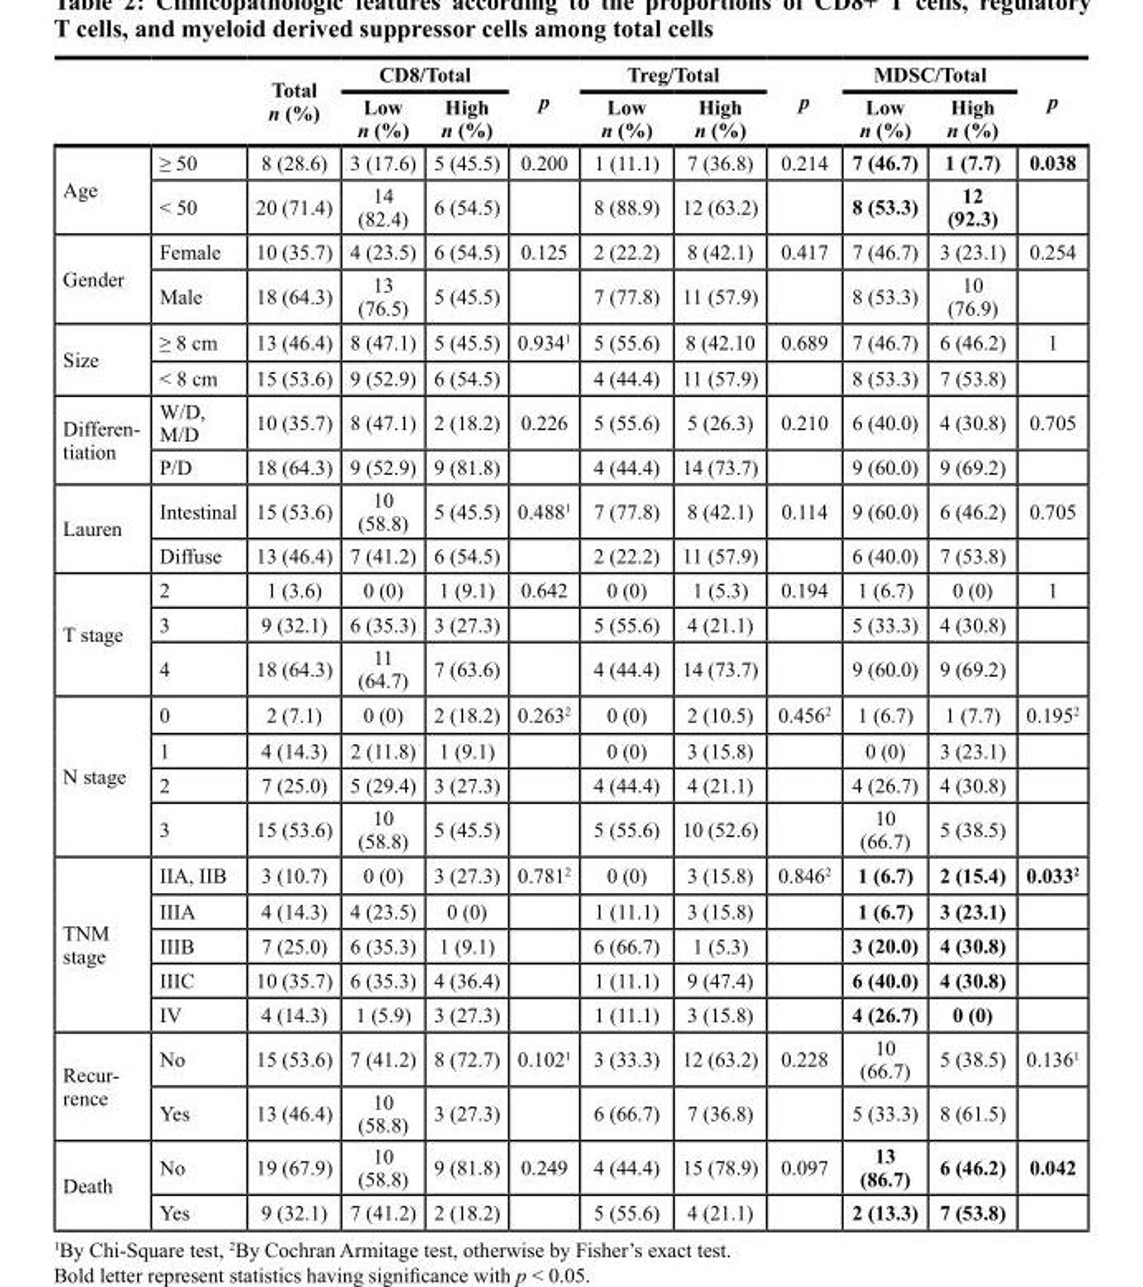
<table><thead><tr><td rowspan="2"></td><td rowspan="2"></td><td rowspan="2">Total n (%)</td><td colspan="2">CD8/Total</td><td rowspan="2">p</td><td colspan="2">Treg/Total</td><td rowspan="2">p</td><td colspan="2">MDSC/Total</td><td rowspan="2">p</td></tr><tr><td>Low n (%)</td><td>High n (%)</td><td>Low n (%)</td><td>High n (%)</td><td>Low n (%)</td><td>High n (%)</td></tr></thead><tbody><tr><td rowspan="2">Age</td><td>≥ 50</td><td>8 (28.6)</td><td>3 (17.6)</td><td>5 (45.5)</td><td>0.200</td><td>1 (11.1)</td><td>7 (36.8)</td><td>0.214</td><td>7 (46.7)</td><td>1 (7.7)</td><td>0.038</td></tr><tr><td>&lt; 50</td><td>20 (71.4)</td><td>14 (82.4)</td><td>6 (54.5)</td><td></td><td>8 (88.9)</td><td>12 (63.2)</td><td></td><td>8 (53.3)</td><td>12 (92.3)</td><td></td></tr><tr><td rowspan="2">Gender</td><td>Female</td><td>10 (35.7)</td><td>4 (23.5)</td><td>6 (54.5)</td><td>0.125</td><td>2 (22.2)</td><td>8 (42.1)</td><td>0.417</td><td>7 (46.7)</td><td>3 (23.1)</td><td>0.254</td></tr><tr><td>Male</td><td>18 (64.3)</td><td>13 (76.5)</td><td>5 (45.5)</td><td></td><td>7 (77.8)</td><td>11 (57.9)</td><td></td><td>8 (53.3)</td><td>10 (76.9)</td><td></td></tr><tr><td rowspan="2">Size</td><td>≥ 8 cm</td><td>13 (46.4)</td><td>8 (47.1)</td><td>5 (45.5)</td><td>0.934<sup>1</sup></td><td>5 (55.6)</td><td>8 (42.10</td><td>0.689</td><td>7 (46.7)</td><td>6 (46.2)</td><td>1</td></tr><tr><td>&lt; 8 cm</td><td>15 (53.6)</td><td>9 (52.9)</td><td>6 (54.5)</td><td></td><td>4 (44.4)</td><td>11 (57.9)</td><td></td><td>8 (53.3)</td><td>7 (53.8)</td><td></td></tr><tr><td rowspan="2">Differen- tiation</td><td>W/D, M/D</td><td>10 (35.7)</td><td>8 (47.1)</td><td>2 (18.2)</td><td>0.226</td><td>5 (55.6)</td><td>5 (26.3)</td><td>0.210</td><td>6 (40.0)</td><td>4 (30.8)</td><td>0.705</td></tr><tr><td>P/D</td><td>18 (64.3)</td><td>9 (52.9)</td><td>9 (81.8)</td><td></td><td>4 (44.4)</td><td>14 (73.7)</td><td></td><td>9 (60.0)</td><td>9 (69.2)</td><td></td></tr><tr><td rowspan="2">Lauren</td><td>Intestinal</td><td>15 (53.6)</td><td>10 (58.8)</td><td>5 (45.5)</td><td>0.488<sup>1</sup></td><td>7 (77.8)</td><td>8 (42.1)</td><td>0.114</td><td>9 (60.0)</td><td>6 (46.2)</td><td>0.705</td></tr><tr><td>Diffuse</td><td>13 (46.4)</td><td>7 (41.2)</td><td>6 (54.5)</td><td></td><td>2 (22.2)</td><td>11 (57.9)</td><td></td><td>6 (40.0)</td><td>7 (53.8)</td><td></td></tr><tr><td rowspan="3">T stage</td><td>2</td><td>1 (3.6)</td><td>0 (0)</td><td>1 (9.1)</td><td>0.642</td><td>0 (0)</td><td>1 (5.3)</td><td>0.194</td><td>1 (6.7)</td><td>0 (0)</td><td>1</td></tr><tr><td>3</td><td>9 (32.1)</td><td>6 (35.3)</td><td>3 (27.3)</td><td></td><td>5 (55.6)</td><td>4 (21.1)</td><td></td><td>5 (33.3)</td><td>4 (30.8)</td><td></td></tr><tr><td>4</td><td>18 (64.3)</td><td>11 (64.7)</td><td>7 (63.6)</td><td></td><td>4 (44.4)</td><td>14 (73.7)</td><td></td><td>9 (60.0)</td><td>9 (69.2)</td><td></td></tr><tr><td rowspan="4">N stage</td><td>0</td><td>2 (7.1)</td><td>0 (0)</td><td>2 (18.2)</td><td>0.263<sup>2</sup></td><td>0 (0)</td><td>2 (10.5)</td><td>0.456<sup>2</sup></td><td>1 (6.7)</td><td>1 (7.7)</td><td>0.195<sup>2</sup></td></tr><tr><td>1</td><td>4 (14.3)</td><td>2 (11.8)</td><td>1 (9.1)</td><td></td><td>0 (0)</td><td>3 (15.8)</td><td></td><td>0 (0)</td><td>3 (23.1)</td><td></td></tr><tr><td>2</td><td>7 (25.0)</td><td>5 (29.4)</td><td>3 (27.3)</td><td></td><td>4 (44.4)</td><td>4 (21.1)</td><td></td><td>4 (26.7)</td><td>4 (30.8)</td><td></td></tr><tr><td>3</td><td>15 (53.6)</td><td>10 (58.8)</td><td>5 (45.5)</td><td></td><td>5 (55.6)</td><td>10 (52.6)</td><td></td><td>10 (66.7)</td><td>5 (38.5)</td><td></td></tr><tr><td rowspan="5">TNM stage</td><td>IIA, IIB</td><td>3 (10.7)</td><td>0 (0)</td><td>3 (27.3)</td><td>0.781<sup>2</sup></td><td>0 (0)</td><td>3 (15.8)</td><td>0.846<sup>2</sup></td><td>1 (6.7)</td><td>2 (15.4)</td><td>0.033<sup>2</sup></td></tr><tr><td>IIIA</td><td>4 (14.3)</td><td>4 (23.5)</td><td>0 (0)</td><td></td><td>1 (11.1)</td><td>3 (15.8)</td><td></td><td>1 (6.7)</td><td>3 (23.1)</td><td></td></tr><tr><td>IIIB</td><td>7 (25.0)</td><td>6 (35.3)</td><td>1 (9.1)</td><td></td><td>6 (66.7)</td><td>1 (5.3)</td><td></td><td>3 (20.0)</td><td>4 (30.8)</td><td></td></tr><tr><td>IIIC</td><td>10 (35.7)</td><td>6 (35.3)</td><td>4 (36.4)</td><td></td><td>1 (11.1)</td><td>9 (47.4)</td><td></td><td>6 (40.0)</td><td>4 (30.8)</td><td></td></tr><tr><td>IV</td><td>4 (14.3)</td><td>1 (5.9)</td><td>3 (27.3)</td><td></td><td>1 (11.1)</td><td>3 (15.8)</td><td></td><td>4 (26.7)</td><td>0 (0)</td><td></td></tr><tr><td rowspan="2">Recur- rence</td><td>No</td><td>15 (53.6)</td><td>7 (41.2)</td><td>8 (72.7)</td><td>0.102<sup>1</sup></td><td>3 (33.3)</td><td>12 (63.2)</td><td>0.228</td><td>10 (66.7)</td><td>5 (38.5)</td><td>0.136<sup>1</sup></td></tr><tr><td>Yes</td><td>13 (46.4)</td><td>10 (58.8)</td><td>3 (27.3)</td><td></td><td>6 (66.7)</td><td>7 (36.8)</td><td></td><td>5 (33.3)</td><td>8 (61.5)</td><td></td></tr><tr><td rowspan="2">Death</td><td>No</td><td>19 (67.9)</td><td>10 (58.8)</td><td>9 (81.8)</td><td>0.249</td><td>4 (44.4)</td><td>15 (78.9)</td><td>0.097</td><td>13 (86.7)</td><td>6 (46.2)</td><td>0.042</td></tr><tr><td>Yes</td><td>9 (32.1)</td><td>7 (41.2)</td><td>2 (18.2)</td><td></td><td>5 (55.6)</td><td>4 (21.1)</td><td></td><td>2 (13.3)</td><td>7 (53.8)</td><td></td></tr></tbody></table>